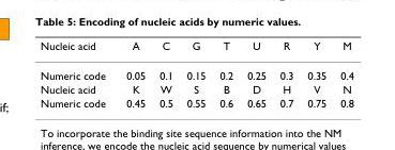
<table><thead><tr><td>Nucleic acid</td><td>A</td><td>C</td><td>G</td><td>T</td><td>U</td><td>R</td><td>Y</td><td>M</td></tr></thead><tbody><tr><td>Numeric code</td><td>0.05</td><td>0.1</td><td>0.15</td><td>0.2</td><td>0.25</td><td>0.3</td><td>0.35</td><td>0.4</td></tr><tr><td>Nucleic acid</td><td>K</td><td>W</td><td>S</td><td>B</td><td>D</td><td>H</td><td>V</td><td>N</td></tr><tr><td>Numeric code</td><td>0.45</td><td>0.5</td><td>0.55</td><td>0.6</td><td>0.65</td><td>0.7</td><td>0.75</td><td>0.8</td></tr></tbody></table>